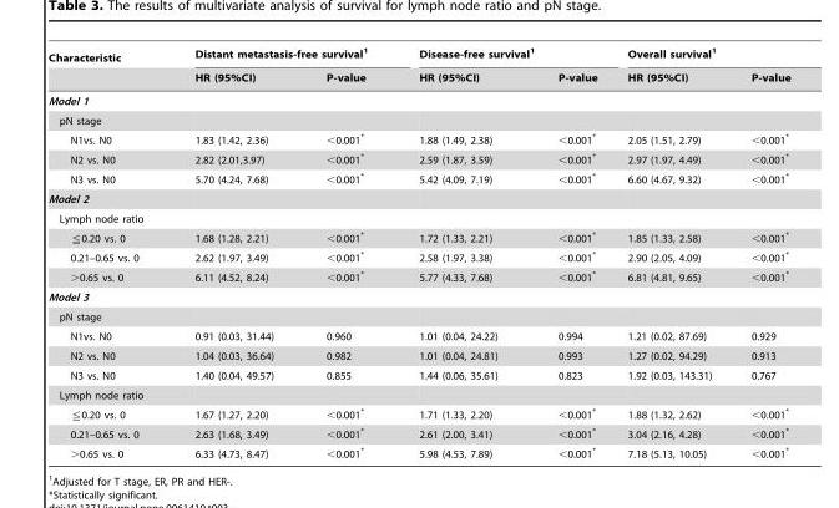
<table><thead><tr><td rowspan="2">Characteristic</td><td colspan="2">Distant metastasis-free survival<sup>1</sup></td><td colspan="2">Disease-free survival<sup>1</sup></td><td colspan="2">Overall survival<sup>1</sup></td></tr><tr><td>HR (95%CI)</td><td>P-value</td><td>HR (95%CI)</td><td>P-value</td><td>HR (95%CI)</td><td>P-value</td></tr></thead><tbody><tr><td colspan="7">Model 1</td></tr><tr><td colspan="7">pN stage</td></tr><tr><td>N1vs. N0</td><td>1.83 (1.42, 2.36)</td><td>&lt;0.001*</td><td>1.88 (1.49, 2.38)</td><td>&lt;0.001*</td><td>2.05 (1.51, 2.79)</td><td>&lt;0.001*</td></tr><tr><td>N2 vs. N0</td><td>2.82 (2.01,3.97)</td><td>&lt;0.001*</td><td>2.59 (1.87, 3.59)</td><td>&lt;0.001*</td><td>2.97 (1.97, 4.49)</td><td>&lt;0.001*</td></tr><tr><td>N3 vs. N0</td><td>5.70 (4.24, 7.68)</td><td>&lt;0.001*</td><td>5.42 (4.09, 7.19)</td><td>&lt;0.001*</td><td>6.60 (4.67, 9.32)</td><td>&lt;0.001*</td></tr><tr><td colspan="7">Model 2</td></tr><tr><td colspan="7">Lymph node ratio</td></tr><tr><td>≦0.20 vs. 0</td><td>1.68 (1.28, 2.21)</td><td>&lt;0.001*</td><td>1.72 (1.33, 2.21)</td><td>&lt;0.001*</td><td>1.85 (1.33, 2.58)</td><td>&lt;0.001*</td></tr><tr><td>0.21–0.65 vs. 0</td><td>2.62 (1.97, 3.49)</td><td>&lt;0.001*</td><td>2.58 (1.97, 3.38)</td><td>&lt;0.001*</td><td>2.90 (2.05, 4.09)</td><td>&lt;0.001*</td></tr><tr><td>&gt;0.65 vs. 0</td><td>6.11 (4.52, 8.24)</td><td>&lt;0.001*</td><td>5.77 (4.33, 7.68)</td><td>&lt;0.001*</td><td>6.81 (4.81, 9.65)</td><td>&lt;0.001*</td></tr><tr><td colspan="7">Model 3</td></tr><tr><td colspan="7">pN stage</td></tr><tr><td>N1vs. N0</td><td>0.91 (0.03, 31.44)</td><td>0.960</td><td>1.01 (0.04, 24.22)</td><td>0.994</td><td>1.21 (0.02, 87.69)</td><td>0.929</td></tr><tr><td>N2 vs. N0</td><td>1.04 (0.03, 36.64)</td><td>0.982</td><td>1.01 (0.04, 24.81)</td><td>0.993</td><td>1.27 (0.02, 94.29)</td><td>0.913</td></tr><tr><td>N3 vs. N0</td><td>1.40 (0.04, 49.57)</td><td>0.855</td><td>1.44 (0.06, 35.61)</td><td>0.823</td><td>1.92 (0.03, 143.31)</td><td>0.767</td></tr><tr><td colspan="7">Lymph node ratio</td></tr><tr><td>≦0.20 vs. 0</td><td>1.67 (1.27, 2.20)</td><td>&lt;0.001*</td><td>1.71 (1.33, 2.20)</td><td>&lt;0.001*</td><td>1.88 (1.32, 2.62)</td><td>&lt;0.001*</td></tr><tr><td>0.21–0.65 vs. 0</td><td>2.63 (1.68, 3.49)</td><td>&lt;0.001*</td><td>2.61 (2.00, 3.41)</td><td>&lt;0.001*</td><td>3.04 (2.16, 4.28)</td><td>&lt;0.001*</td></tr><tr><td>&gt;0.65 vs. 0</td><td>6.33 (4.73, 8.47)</td><td>&lt;0.001*</td><td>5.98 (4.53, 7.89)</td><td>&lt;0.001*</td><td>7.18 (5.13, 10.05)</td><td>&lt;0.001*</td></tr></tbody></table>